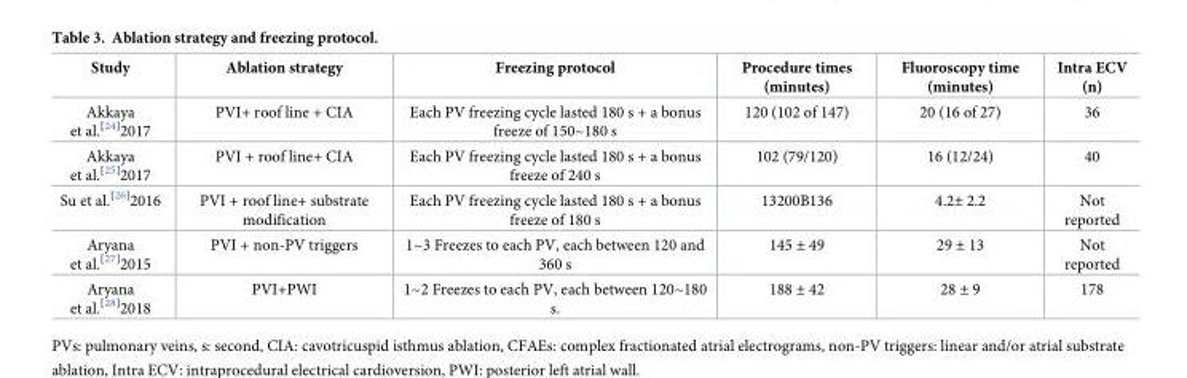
<table><thead><tr><td>Study</td><td>Ablation strategy</td><td>Freezing protocol</td><td>Procedure times (minutes)</td><td>Fluoroscopy time (minutes)</td><td>Intra ECV (n)</td></tr></thead><tbody><tr><td>Akkaya et al.<sup>[24]</sup>2017</td><td>PVI+ roof line + CIA</td><td>Each PV freezing cycle lasted 180 s + a bonus freeze of 150~180 s</td><td>120 (102 of 147)</td><td>20 (16 of 27)</td><td>36</td></tr><tr><td>Akkaya et al.<sup>[25]</sup>2017</td><td>PVI + roof line+ CIA</td><td>Each PV freezing cycle lasted 180 s + a bonus freeze of 240 s</td><td>102 (79/120)</td><td>16 (12/24)</td><td>40</td></tr><tr><td>Su et al.<sup>[26]</sup>2016</td><td>PVI + roof line+ substrate modification</td><td>Each PV freezing cycle lasted 180 s + a bonus freeze of 180 s</td><td>13200B136</td><td>4.2± 2.2</td><td>Not reported</td></tr><tr><td>Aryana et al.<sup>[27]</sup>2015</td><td>PVI + non-PV triggers</td><td>1~3 Freezes to each PV, each between 120 and 360 s</td><td>145 ± 49</td><td>29 ± 13</td><td>Not reported</td></tr><tr><td>Aryana et al.<sup>[28]</sup>2018</td><td>PVI+PWI</td><td>1~2 Freezes to each PV, each between 120~180 s.</td><td>188 ± 42</td><td>28 ± 9</td><td>178</td></tr></tbody></table>